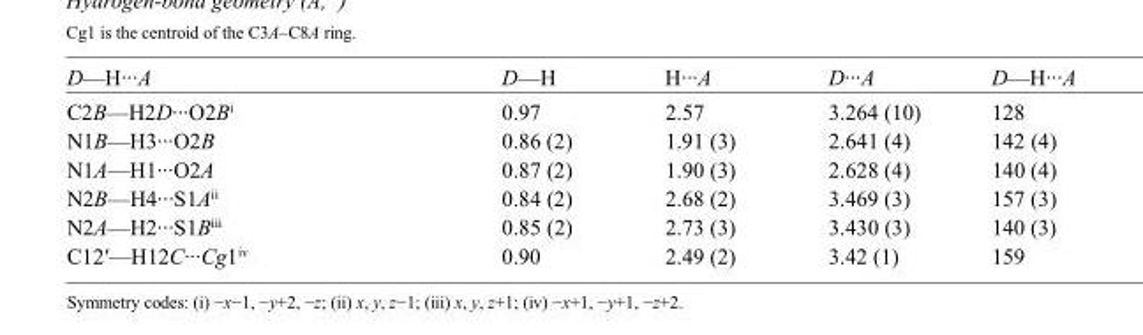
<table><tbody><tr><td>D—H···A</td><td>D—H</td><td>H···A</td><td>D···A</td><td>D—H···A</td></tr><tr><td>C2B—H2D···O2B<sup>i</sup></td><td>0.97</td><td>2.57</td><td>3.264 (10)</td><td>128</td></tr><tr><td>N1B—H3···O2B</td><td>0.86 (2)</td><td>1.91 (3)</td><td>2.641 (4)</td><td>142 (4)</td></tr><tr><td>N1A—H1···O2A</td><td>0.87 (2)</td><td>1.90 (3)</td><td>2.628 (4)</td><td>140 (4)</td></tr><tr><td>N2B—H4···S1A<sup>ii</sup></td><td>0.84 (2)</td><td>2.68 (2)</td><td>3.469 (3)</td><td>157 (3)</td></tr><tr><td>N2A—H2···S1B<sup>iii</sup></td><td>0.85 (2)</td><td>2.73 (3)</td><td>3.430 (3)</td><td>140 (3)</td></tr><tr><td>C12′—H12C···Cg1<sup>iv</sup></td><td>0.90</td><td>2.49 (2)</td><td>3.42 (1)</td><td>159</td></tr></tbody></table>